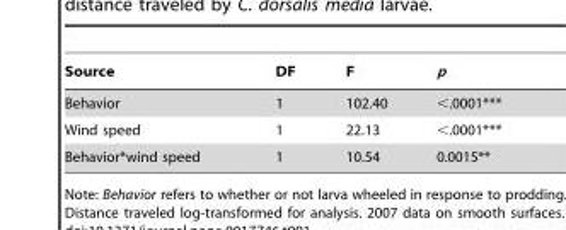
<table><thead><tr><td>Source</td><td>DF</td><td>F</td><td>p</td></tr></thead><tbody><tr><td>Behavior</td><td>1</td><td>102.40</td><td>&lt;.0001***</td></tr><tr><td>Wind speed</td><td>1</td><td>22.13</td><td>&lt;.0001***</td></tr><tr><td>Behavior*wind speed</td><td>1</td><td>10.54</td><td>0.0015**</td></tr></tbody></table>